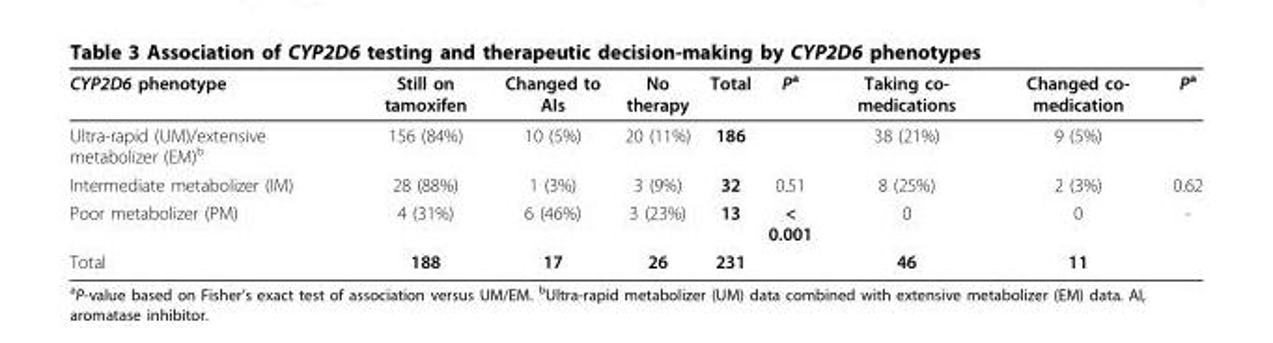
<table><thead><tr><td>CYP2D6 phenotype</td><td>Still on tamoxifen</td><td>Changed to AIs</td><td>No therapy</td><td>Total</td><td>P<sup>a</sup></td><td>Taking co- medications</td><td>Changed co- medication</td><td>P<sup>a</sup></td></tr></thead><tbody><tr><td>Ultra-rapid (UM)/extensive metabolizer (EM)<sup>b</sup></td><td>156 (84%)</td><td>10 (5%)</td><td>20 (11%)</td><td>186</td><td></td><td>38 (21%)</td><td>9 (5%)</td><td></td></tr><tr><td>Intermediate metabolizer (IM)</td><td>28 (88%)</td><td>1 (3%)</td><td>3 (9%)</td><td>32</td><td>0.51</td><td>8 (25%)</td><td>2 (3%)</td><td>0.62</td></tr><tr><td>Poor metabolizer (PM)</td><td>4 (31%)</td><td>6 (46%)</td><td>3 (23%)</td><td>13</td><td>&lt; 0.001</td><td>0</td><td>0</td><td>-</td></tr><tr><td>Total</td><td>188</td><td>17</td><td>26</td><td>231</td><td></td><td>46</td><td>11</td><td></td></tr></tbody></table>